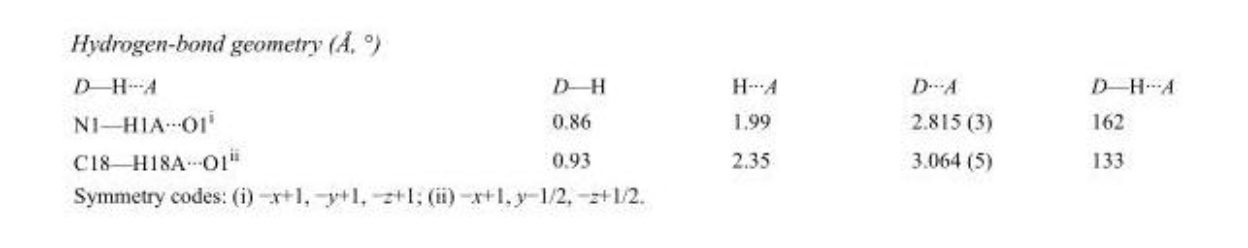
<table><tbody><tr><td>D—H···A</td><td>D—H</td><td>H···A</td><td>D···A</td><td>D—H···A</td></tr><tr><td>N1—H1A···O1<sup>i</sup></td><td>0.86</td><td>1.99</td><td>2.815 (3)</td><td>162</td></tr><tr><td>C18—H18A···O1<sup>ii</sup></td><td>0.93</td><td>2.35</td><td>3.064 (5)</td><td>133</td></tr></tbody></table>